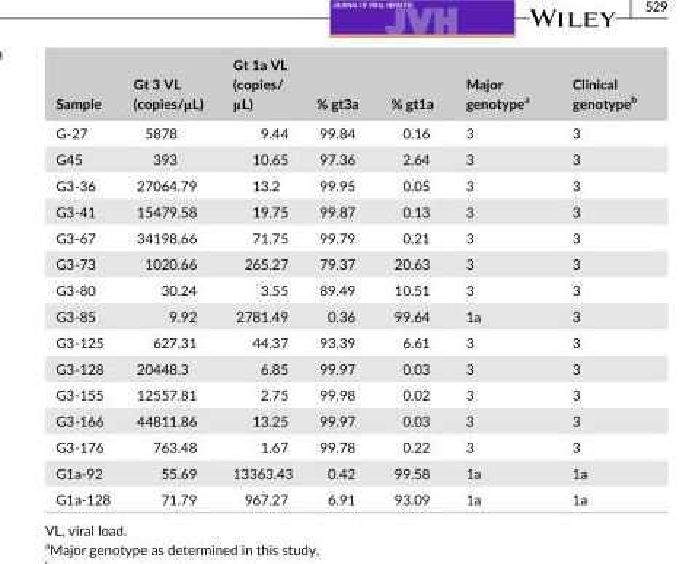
<table><thead><tr><td>Sample</td><td>Gt 3 VL (copies/μL)</td><td>Gt 1a VL (copies/ μL)</td><td>% gt3a</td><td>% gt1a</td><td>Major genotype<sup>a</sup></td><td>Clinical genotype<sup>b</sup></td></tr></thead><tbody><tr><td>G- 27</td><td>5878</td><td>9.44</td><td>99.84</td><td>0.16</td><td>3</td><td>3</td></tr><tr><td>G45</td><td>393</td><td>10.65</td><td>97.36</td><td>2.64</td><td>3</td><td>3</td></tr><tr><td>G3- 36</td><td>27064.79</td><td>13.2</td><td>99.95</td><td>0.05</td><td>3</td><td>3</td></tr><tr><td>G3- 41</td><td>15479.58</td><td>19.75</td><td>99.87</td><td>0.13</td><td>3</td><td>3</td></tr><tr><td>G3- 67</td><td>34198.66</td><td>71.75</td><td>99.79</td><td>0.21</td><td>3</td><td>3</td></tr><tr><td>G3- 73</td><td>1020.66</td><td>265.27</td><td>79.37</td><td>20.63</td><td>3</td><td>3</td></tr><tr><td>G3- 80</td><td>30.24</td><td>3.55</td><td>89.49</td><td>10.51</td><td>3</td><td>3</td></tr><tr><td>G3- 85</td><td>9.92</td><td>2781.49</td><td>0.36</td><td>99.64</td><td>1a</td><td>3</td></tr><tr><td>G3- 125</td><td>627.31</td><td>44.37</td><td>93.39</td><td>6.61</td><td>3</td><td>3</td></tr><tr><td>G3- 128</td><td>20448.3</td><td>6.85</td><td>99.97</td><td>0.03</td><td>3</td><td>3</td></tr><tr><td>G3- 155</td><td>12557.81</td><td>2.75</td><td>99.98</td><td>0.02</td><td>3</td><td>3</td></tr><tr><td>G3- 166</td><td>44811.86</td><td>13.25</td><td>99.97</td><td>0.03</td><td>3</td><td>3</td></tr><tr><td>G3- 176</td><td>763.48</td><td>1.67</td><td>99.78</td><td>0.22</td><td>3</td><td>3</td></tr><tr><td>G1a- 92</td><td>55.69</td><td>13363.43</td><td>0.42</td><td>99.58</td><td>1a</td><td>1a</td></tr><tr><td>G1a- 128</td><td>71.79</td><td>967.27</td><td>6.91</td><td>93.09</td><td>1a</td><td>1a</td></tr></tbody></table>